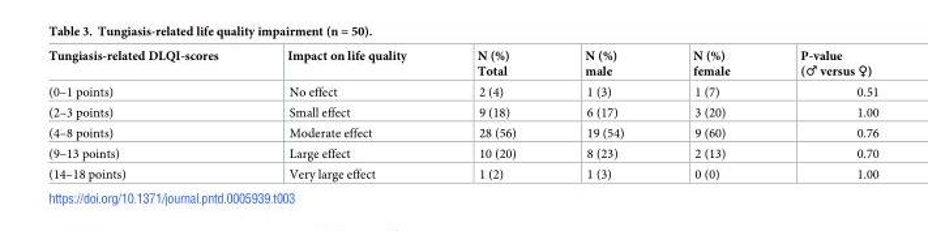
<table><thead><tr><td>Tungiasis-related DLQI-scores</td><td>Impact on life quality</td><td>N (%) Total</td><td>N (%) male</td><td>N (%) female</td><td>P-value (♂ versus ♀)</td></tr></thead><tbody><tr><td>(0–1 points)</td><td>No effect</td><td>2 (4)</td><td>1 (3)</td><td>1 (7)</td><td>0.51</td></tr><tr><td>(2–3 points)</td><td>Small effect</td><td>9 (18)</td><td>6 (17)</td><td>3 (20)</td><td>1.00</td></tr><tr><td>(4–8 points)</td><td>Moderate effect</td><td>28 (56)</td><td>19 (54)</td><td>9 (60)</td><td>0.76</td></tr><tr><td>(9–13 points)</td><td>Large effect</td><td>10 (20)</td><td>8 (23)</td><td>2 (13)</td><td>0.70</td></tr><tr><td>(14–18 points)</td><td>Very large effect</td><td>1 (2)</td><td>1 (3)</td><td>0 (0)</td><td>1.00</td></tr></tbody></table>